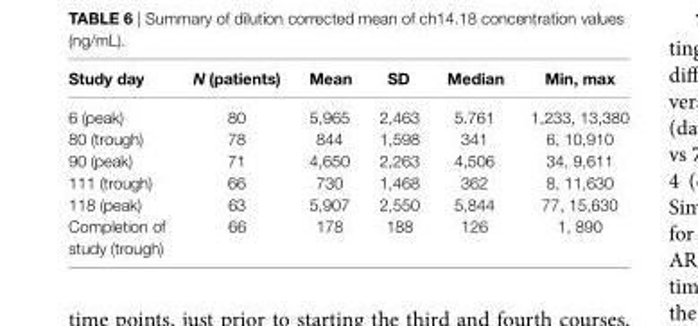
<table><thead><tr><td>Study day</td><td>N (patients)</td><td>Mean</td><td>SD</td><td>Median</td><td>Min, max</td></tr></thead><tbody><tr><td>6 (peak)</td><td>80</td><td>5,965</td><td>2,463</td><td>5.761</td><td>1,233, 13,380</td></tr><tr><td>80 (trough)</td><td>78</td><td>844</td><td>1,598</td><td>341</td><td>6, 10,910</td></tr><tr><td>90 (peak)</td><td>71</td><td>4,650</td><td>2,263</td><td>4,506</td><td>34, 9,611</td></tr><tr><td>111 (trough)</td><td>66</td><td>730</td><td>1,468</td><td>362</td><td>8, 11,630</td></tr><tr><td>118 (peak)</td><td>63</td><td>5,907</td><td>2,550</td><td>5,844</td><td>77, 15,630</td></tr><tr><td>Completion of study (trough)</td><td>66</td><td>178</td><td>188</td><td>126</td><td>1, 890</td></tr></tbody></table>